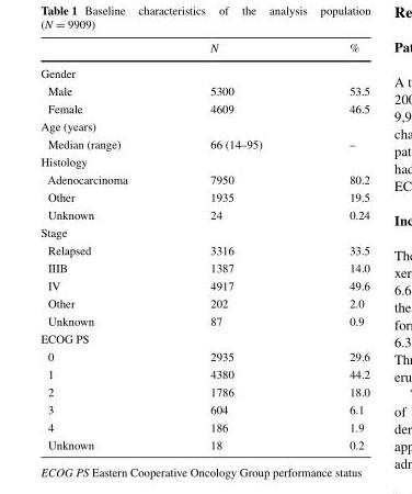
<table><thead><tr><td></td><td>N</td><td>%</td></tr></thead><tbody><tr><td colspan="3">Gender</td></tr><tr><td>Male</td><td>5300</td><td>53.5</td></tr><tr><td>Female</td><td>4609</td><td>46.5</td></tr><tr><td colspan="3">Age (years)</td></tr><tr><td>Median (range)</td><td>66 (14–95)</td><td>–</td></tr><tr><td colspan="3">Histology</td></tr><tr><td>Adenocarcinoma</td><td>7950</td><td>80.2</td></tr><tr><td>Other</td><td>1935</td><td>19.5</td></tr><tr><td>Unknown</td><td>24</td><td>0.24</td></tr><tr><td colspan="3">Stage</td></tr><tr><td>Relapsed</td><td>3316</td><td>33.5</td></tr><tr><td>IIIB</td><td>1387</td><td>14.0</td></tr><tr><td>IV</td><td>4917</td><td>49.6</td></tr><tr><td>Other</td><td>202</td><td>2.0</td></tr><tr><td>Unknown</td><td>87</td><td>0.9</td></tr><tr><td colspan="3">ECOG PS</td></tr><tr><td>0</td><td>2935</td><td>29.6</td></tr><tr><td>1</td><td>4380</td><td>44.2</td></tr><tr><td>2</td><td>1786</td><td>18.0</td></tr><tr><td>3</td><td>604</td><td>6.1</td></tr><tr><td>4</td><td>186</td><td>1.9</td></tr><tr><td>Unknown</td><td>18</td><td>0.2</td></tr></tbody></table>